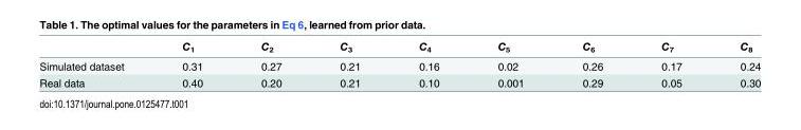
<table><thead><tr><td></td><td>C<sub>1</sub></td><td>C<sub>2</sub></td><td>C<sub>3</sub></td><td>C<sub>4</sub></td><td>C<sub>5</sub></td><td>C<sub>6</sub></td><td>C<sub>7</sub></td><td>C<sub>8</sub></td></tr></thead><tbody><tr><td>Simulated dataset</td><td>0.31</td><td>0.27</td><td>0.21</td><td>0.16</td><td>0.02</td><td>0.26</td><td>0.17</td><td>0.24</td></tr><tr><td>Real data</td><td>0.40</td><td>0.20</td><td>0.21</td><td>0.10</td><td>0.001</td><td>0.29</td><td>0.05</td><td>0.30</td></tr></tbody></table>